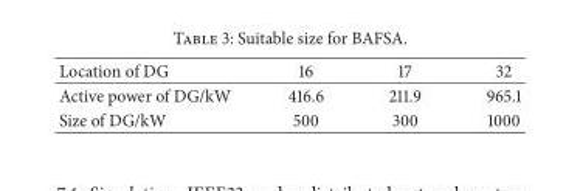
<table><thead><tr><td>Location of DG</td><td>16</td><td>17</td><td>32</td></tr></thead><tbody><tr><td>Active power of DG/kW</td><td>416.6</td><td>211.9</td><td>965.1</td></tr><tr><td>Size of DG/kW</td><td>500</td><td>300</td><td>1000</td></tr></tbody></table>